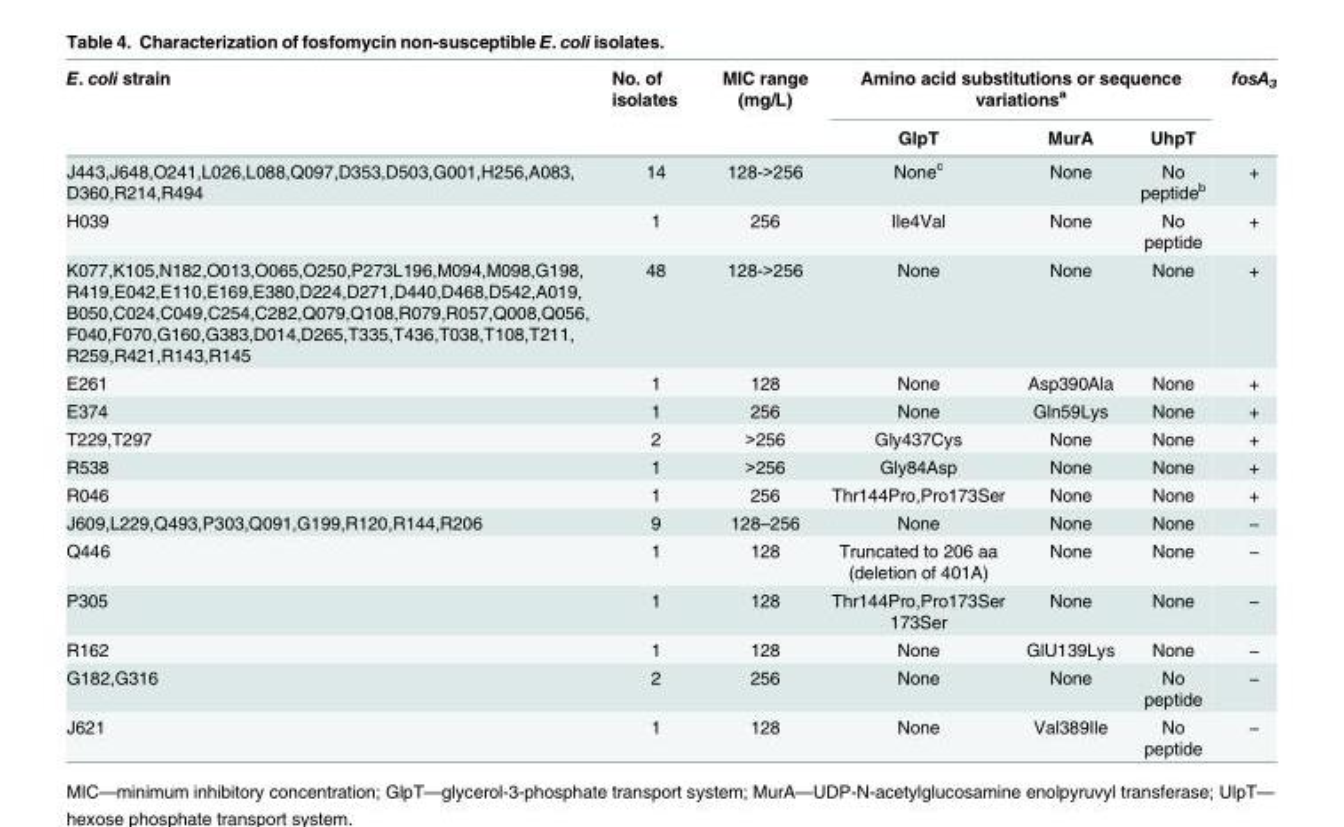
<table><thead><tr><td rowspan="2">E. coli strain</td><td rowspan="2">No. of isolates</td><td rowspan="2">MIC range (mg/L)</td><td colspan="3">Amino acid substitutions or sequence variations<sup>a</sup></td><td rowspan="2">fosA<sub>3</sub></td></tr><tr><td>GlpT</td><td>MurA</td><td>UhpT</td></tr></thead><tbody><tr><td>J443,J648,O241,L026,L088,Q097,D353,D503,G001,H256,A083, D360,R214,R494</td><td>14</td><td>128-&gt;256</td><td>None<sup>c</sup></td><td>None</td><td>No peptide<sup>b</sup></td><td>+</td></tr><tr><td>H039</td><td>1</td><td>256</td><td>Ile4Val</td><td>None</td><td>No peptide</td><td>+</td></tr><tr><td>K077,K105,N182,O013,O065,O250,P273L196,M094,M098,G198, R419,E042,E110,E169,E380,D224,D271,D440,D468,D542,A019, B050,C024,C049,C254,C282,Q079,Q108,R079,R057,Q008,Q056, F040,F070,G160,G383,D014,D265,T335,T436,T038,T108,T211, R259,R421,R143,R145</td><td>48</td><td>128-&gt;256</td><td>None</td><td>None</td><td>None</td><td>+</td></tr><tr><td>E261</td><td>1</td><td>128</td><td>None</td><td>Asp390Ala</td><td>None</td><td>+</td></tr><tr><td>E374</td><td>1</td><td>256</td><td>None</td><td>Gln59Lys</td><td>None</td><td>+</td></tr><tr><td>T229,T297</td><td>2</td><td>&gt;256</td><td>Gly437Cys</td><td>None</td><td>None</td><td>+</td></tr><tr><td>R538</td><td>1</td><td>&gt;256</td><td>Gly84Asp</td><td>None</td><td>None</td><td>+</td></tr><tr><td>R046</td><td>1</td><td>256</td><td>Thr144Pro,Pro173Ser</td><td>None</td><td>None</td><td>+</td></tr><tr><td>J609,L229,Q493,P303,Q091,G199,R120,R144,R206</td><td>9</td><td>128–256</td><td>None</td><td>None</td><td>None</td><td>−</td></tr><tr><td>Q446</td><td>1</td><td>128</td><td>Truncated to 206 aa (deletion of 401A)</td><td>None</td><td>None</td><td>−</td></tr><tr><td>P305</td><td>1</td><td>128</td><td>Thr144Pro,Pro173Ser 173Ser</td><td>None</td><td>None</td><td>−</td></tr><tr><td>R162</td><td>1</td><td>128</td><td>None</td><td>GlU139Lys</td><td>None</td><td>−</td></tr><tr><td>G182,G316</td><td>2</td><td>256</td><td>None</td><td>None</td><td>No peptide</td><td>−</td></tr><tr><td>J621</td><td>1</td><td>128</td><td>None</td><td>Val389Ile</td><td>No peptide</td><td>−</td></tr></tbody></table>